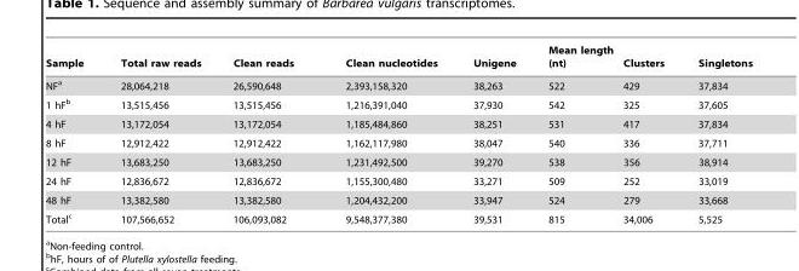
<table><thead><tr><td>Sample</td><td>Total raw reads</td><td>Clean reads</td><td>Clean nucleotides</td><td>Unigene</td><td>Mean length (nt)</td><td>Clusters</td><td>Singletons</td></tr></thead><tbody><tr><td>NF<sup>a</sup></td><td>28,064,218</td><td>26,590,648</td><td>2,393,158,320</td><td>38,263</td><td>522</td><td>429</td><td>37,834</td></tr><tr><td>1 hF<sup>b</sup></td><td>13,515,456</td><td>13,515,456</td><td>1,216,391,040</td><td>37,930</td><td>542</td><td>325</td><td>37,605</td></tr><tr><td>4 hF</td><td>13,172,054</td><td>13,172,054</td><td>1,185,484,860</td><td>38,251</td><td>531</td><td>417</td><td>37,834</td></tr><tr><td>8 hF</td><td>12,912,422</td><td>12,912,422</td><td>1,162,117,980</td><td>38,047</td><td>540</td><td>336</td><td>37,711</td></tr><tr><td>12 hF</td><td>13,683,250</td><td>13,683,250</td><td>1,231,492,500</td><td>39,270</td><td>538</td><td>356</td><td>38,914</td></tr><tr><td>24 hF</td><td>12,836,672</td><td>12,836,672</td><td>1,155,300,480</td><td>33,271</td><td>509</td><td>252</td><td>33,019</td></tr><tr><td>48 hF</td><td>13,382,580</td><td>13,382,580</td><td>1,204,432,200</td><td>33,947</td><td>524</td><td>279</td><td>33,668</td></tr><tr><td>Total<sup>c</sup></td><td>107,566,652</td><td>106,093,082</td><td>9,548,377,380</td><td>39,531</td><td>815</td><td>34,006</td><td>5,525</td></tr></tbody></table>